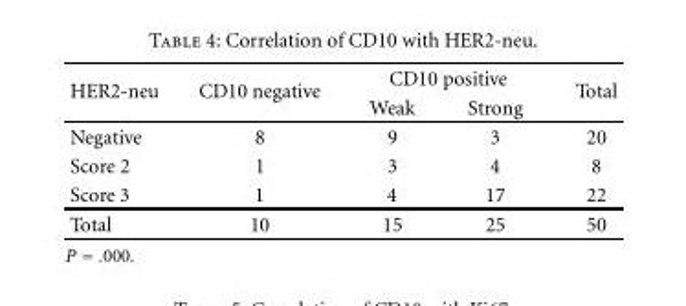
<table><thead><tr><td rowspan="2">HER2-neu</td><td rowspan="2">CD10 negative</td><td colspan="2">CD10 positive</td><td rowspan="2">Total</td></tr><tr><td>Weak</td><td>Strong</td></tr></thead><tbody><tr><td>Negative</td><td>8</td><td>9</td><td>3</td><td>20</td></tr><tr><td>Score 2</td><td>1</td><td>3</td><td>4</td><td>8</td></tr><tr><td>Score 3</td><td>1</td><td>4</td><td>17</td><td>22</td></tr><tr><td>Total</td><td>10</td><td>15</td><td>25</td><td>50</td></tr></tbody></table>